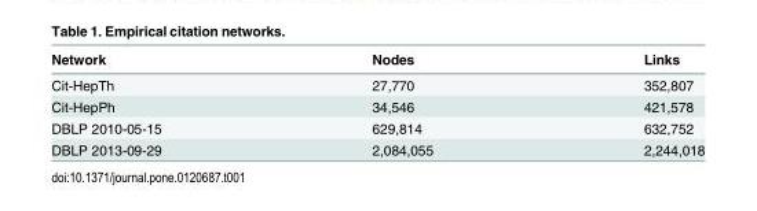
<table><thead><tr><td>Network</td><td>Nodes</td><td>Links</td></tr></thead><tbody><tr><td>Cit-HepTh</td><td>27,770</td><td>352,807</td></tr><tr><td>Cit-HepPh</td><td>34,546</td><td>421,578</td></tr><tr><td>DBLP 2010-05-15</td><td>629,814</td><td>632,752</td></tr><tr><td>DBLP 2013-09-29</td><td>2,084,055</td><td>2,244,018</td></tr></tbody></table>